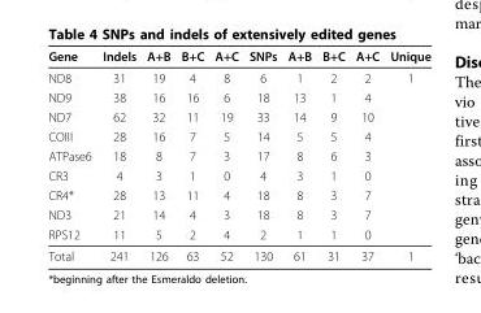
<table><thead><tr><td>Gene</td><td>Indels</td><td>A+B</td><td>B+C</td><td>A+C</td><td>SNPs</td><td>A+B</td><td>B+C</td><td>A+C</td><td>Unique</td></tr></thead><tbody><tr><td>ND8</td><td>31</td><td>19</td><td>4</td><td>8</td><td>6</td><td>1</td><td>2</td><td>2</td><td>1</td></tr><tr><td>ND9</td><td>38</td><td>16</td><td>16</td><td>6</td><td>18</td><td>13</td><td>1</td><td>4</td><td></td></tr><tr><td>ND7</td><td>62</td><td>32</td><td>11</td><td>19</td><td>33</td><td>14</td><td>9</td><td>10</td><td></td></tr><tr><td>COIII</td><td>28</td><td>16</td><td>7</td><td>5</td><td>14</td><td>5</td><td>5</td><td>4</td><td></td></tr><tr><td>ATPase6</td><td>18</td><td>8</td><td>7</td><td>3</td><td>17</td><td>8</td><td>6</td><td>3</td><td></td></tr><tr><td>CR3</td><td>4</td><td>3</td><td>1</td><td>0</td><td>4</td><td>3</td><td>1</td><td>0</td><td></td></tr><tr><td>CR4*</td><td>28</td><td>13</td><td>11</td><td>4</td><td>18</td><td>8</td><td>3</td><td>7</td><td></td></tr><tr><td>ND3</td><td>21</td><td>14</td><td>4</td><td>3</td><td>18</td><td>8</td><td>3</td><td>7</td><td></td></tr><tr><td>RPS12</td><td>11</td><td>5</td><td>2</td><td>4</td><td>2</td><td>1</td><td>1</td><td>0</td><td></td></tr><tr><td>Total</td><td>241</td><td>126</td><td>63</td><td>52</td><td>130</td><td>61</td><td>31</td><td>37</td><td>1</td></tr></tbody></table>